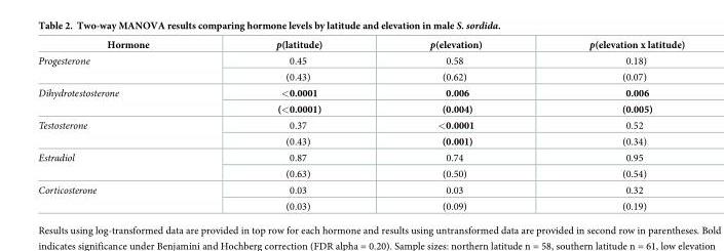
<table><thead><tr><td>Hormone</td><td>p(latitude)</td><td>p(elevation)</td><td>p(elevation x latitude)</td></tr></thead><tbody><tr><td rowspan="2">Progesterone</td><td>0.45</td><td>0.58</td><td>0.18)</td></tr><tr><td>(0.43)</td><td>(0.62)</td><td>(0.07)</td></tr><tr><td rowspan="2">Dihydrotestosterone</td><td>&lt;0.0001</td><td>0.006</td><td>0.006</td></tr><tr><td>(&lt;0.0001)</td><td>(0.004)</td><td>(0.005)</td></tr><tr><td rowspan="2">Testosterone</td><td>0.37</td><td>&lt;0.0001</td><td>0.52</td></tr><tr><td>(0.43)</td><td>(0.001)</td><td>(0.34)</td></tr><tr><td rowspan="2">Estradiol</td><td>0.87</td><td>0.74</td><td>0.95</td></tr><tr><td>(0.63)</td><td>(0.50)</td><td>(0.54)</td></tr><tr><td rowspan="2">Corticosterone</td><td>0.03</td><td>0.03</td><td>0.32</td></tr><tr><td>(0.03)</td><td>(0.09)</td><td>(0.19)</td></tr></tbody></table>